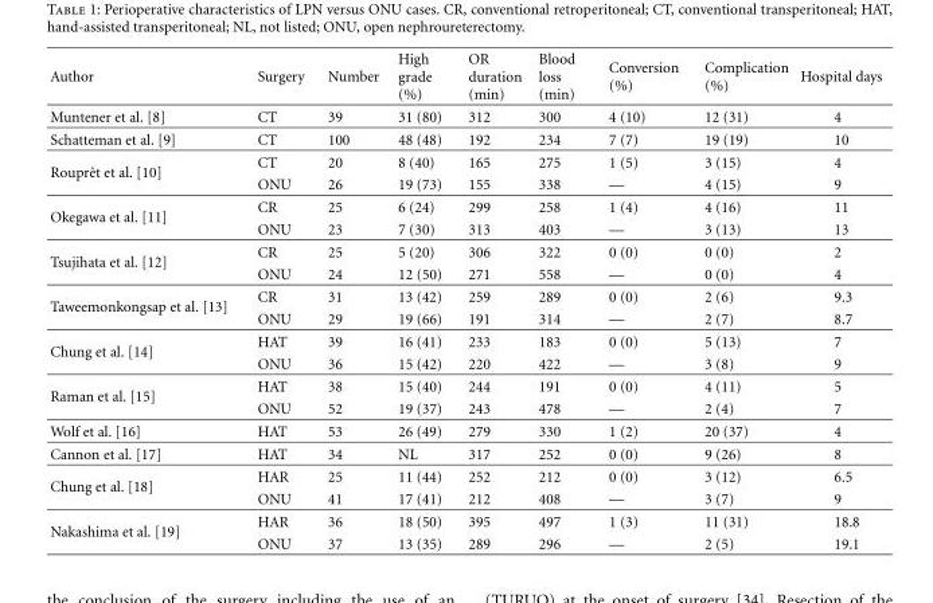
<table><thead><tr><td>Author</td><td>Surgery</td><td>Number</td><td>High grade (%)</td><td>OR duration (min)</td><td>Blood loss (min)</td><td>Conversion (%)</td><td>Complication (%)</td><td>Hospital days</td></tr></thead><tbody><tr><td>Muntener et al. [8]</td><td>CT</td><td>39</td><td>31 (80)</td><td>312</td><td>300</td><td>4 (10)</td><td>12 (31)</td><td>4</td></tr><tr><td>Schatteman et al. [9]</td><td>CT</td><td>100</td><td>48 (48)</td><td>192</td><td>234</td><td>7 (7)</td><td>19 (19)</td><td>10</td></tr><tr><td rowspan="2">Rouprˆet et al. [10]</td><td>CT</td><td>20</td><td>8 (40)</td><td>165</td><td>275</td><td>1 (5)</td><td>3 (15)</td><td>4</td></tr><tr><td>ONU</td><td>26</td><td>19 (73)</td><td>155</td><td>338</td><td>—</td><td>4 (15)</td><td>9</td></tr><tr><td rowspan="2">Okegawa et al. [11]</td><td>CR</td><td>25</td><td>6 (24)</td><td>299</td><td>258</td><td>1 (4)</td><td>4 (16)</td><td>11</td></tr><tr><td>ONU</td><td>23</td><td>7 (30)</td><td>313</td><td>403</td><td>—</td><td>3 (13)</td><td>13</td></tr><tr><td rowspan="2">Tsujihata et al. [12]</td><td>CR</td><td>25</td><td>5 (20)</td><td>306</td><td>322</td><td>0 (0)</td><td>0 (0)</td><td>2</td></tr><tr><td>ONU</td><td>24</td><td>12 (50)</td><td>271</td><td>558</td><td>—</td><td>0 (0)</td><td>4</td></tr><tr><td rowspan="2">Taweemonkongsap et al. [13]</td><td>CR</td><td>31</td><td>13 (42)</td><td>259</td><td>289</td><td>0 (0)</td><td>2 (6)</td><td>9.3</td></tr><tr><td>ONU</td><td>29</td><td>19 (66)</td><td>191</td><td>314</td><td>—</td><td>2 (7)</td><td>8.7</td></tr><tr><td rowspan="2">Chung et al. [14]</td><td>HAT</td><td>39</td><td>16 (41)</td><td>233</td><td>183</td><td>0 (0)</td><td>5 (13)</td><td>7</td></tr><tr><td>ONU</td><td>36</td><td>15 (42)</td><td>220</td><td>422</td><td>—</td><td>3 (8)</td><td>9</td></tr><tr><td rowspan="2">Raman et al. [15]</td><td>HAT</td><td>38</td><td>15 (40)</td><td>244</td><td>191</td><td>0 (0)</td><td>4 (11)</td><td>5</td></tr><tr><td>ONU</td><td>52</td><td>19 (37)</td><td>243</td><td>478</td><td>—</td><td>2 (4)</td><td>7</td></tr><tr><td>Wolf et al. [16]</td><td>HAT</td><td>53</td><td>26 (49)</td><td>279</td><td>330</td><td>1 (2)</td><td>20 (37)</td><td>4</td></tr><tr><td>Cannon et al. [17]</td><td>HAT</td><td>34</td><td>NL</td><td>317</td><td>252</td><td>0 (0)</td><td>9 (26)</td><td>8</td></tr><tr><td rowspan="2">Chung et al. [18]</td><td>HAR</td><td>25</td><td>11 (44)</td><td>252</td><td>212</td><td>0 (0)</td><td>3 (12)</td><td>6.5</td></tr><tr><td>ONU</td><td>41</td><td>17 (41)</td><td>212</td><td>408</td><td>—</td><td>3 (7)</td><td>9</td></tr><tr><td rowspan="2">Nakashima et al. [19]</td><td>HAR</td><td>36</td><td>18 (50)</td><td>395</td><td>497</td><td>1 (3)</td><td>11 (31)</td><td>18.8</td></tr><tr><td>ONU</td><td>37</td><td>13 (35)</td><td>289</td><td>296</td><td>—</td><td>2 (5)</td><td>19.1</td></tr></tbody></table>